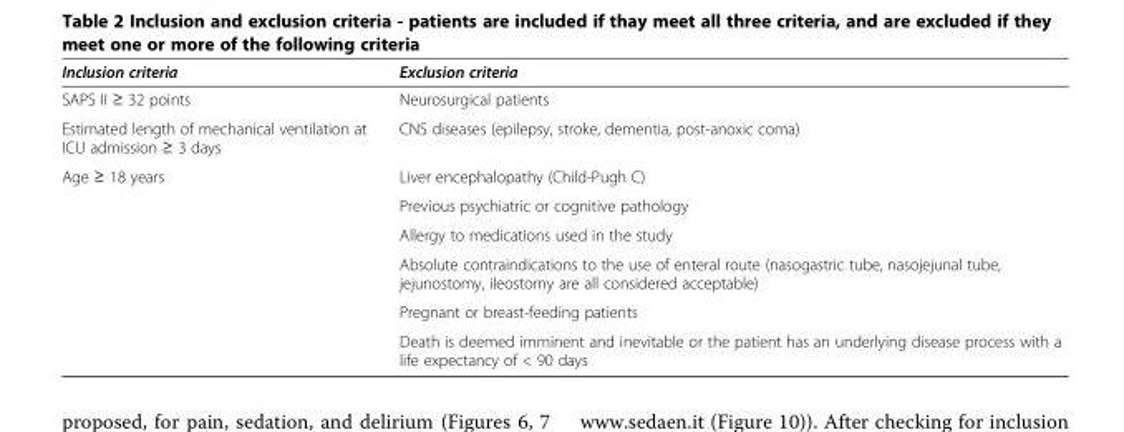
<table><thead><tr><td>Inclusion criteria</td><td>Exclusion criteria</td></tr></thead><tbody><tr><td>SAPS II ≥ 32 points</td><td>Neurosurgical patients</td></tr><tr><td>Estimated length of mechanical ventilation at ICU admission ≥ 3 days</td><td>CNS diseases (epilepsy, stroke, dementia, post-anoxic coma)</td></tr><tr><td rowspan="6">Age ≥ 18 years</td><td>Liver encephalopathy (Child-Pugh C)</td></tr><tr><td>Previous psychiatric or cognitive pathology</td></tr><tr><td>Allergy to medications used in the study</td></tr><tr><td>Absolute contraindications to the use of enteral route (nasogastric tube, nasojejunal tube, jejunostomy, ileostomy are all considered acceptable)</td></tr><tr><td>Pregnant or breast-feeding patients</td></tr><tr><td>Death is deemed imminent and inevitable or the patient has an underlying disease process with a life expectancy of &lt; 90 days</td></tr></tbody></table>